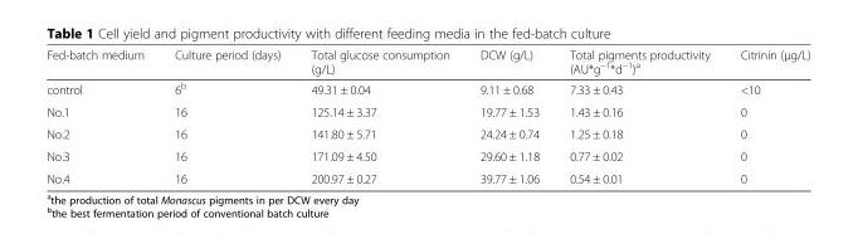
<table><thead><tr><td>Fed-batch medium</td><td>Culture period (days)</td><td>Total glucose consumption (g/L)</td><td>DCW (g/L)</td><td>Total pigments productivity (AU*g<sup>−1</sup>*d<sup>−1</sup>)<sup>a</sup></td><td>Citrinin (μg/L)</td></tr></thead><tbody><tr><td>control</td><td>6<sup>b</sup></td><td>49.31 ± 0.04</td><td>9.11 ± 0.68</td><td>7.33 ± 0.43</td><td>&lt;10</td></tr><tr><td>No.1</td><td>16</td><td>125.14 ± 3.37</td><td>19.77 ± 1.53</td><td>1.43 ± 0.16</td><td>0</td></tr><tr><td>No.2</td><td>16</td><td>141.80 ± 5.71</td><td>24.24 ± 0.74</td><td>1.25 ± 0.18</td><td>0</td></tr><tr><td>No.3</td><td>16</td><td>171.09 ± 4.50</td><td>29.60 ± 1.18</td><td>0.77 ± 0.02</td><td>0</td></tr><tr><td>No.4</td><td>16</td><td>200.97 ± 0.27</td><td>39.77 ± 1.06</td><td>0.54 ± 0.01</td><td>0</td></tr></tbody></table>